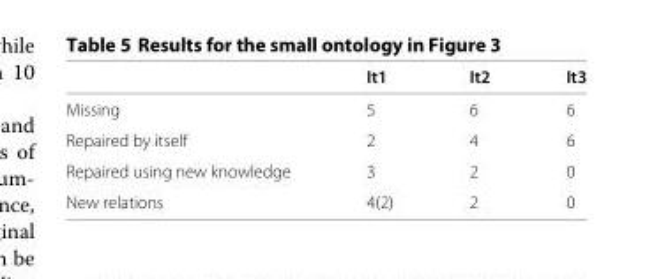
<table><thead><tr><td></td><td>It1</td><td>It2</td><td>It3</td></tr></thead><tbody><tr><td>Missing</td><td>5</td><td>6</td><td>6</td></tr><tr><td>Repaired by itself</td><td>2</td><td>4</td><td>6</td></tr><tr><td>Repaired using new knowledge</td><td>3</td><td>2</td><td>0</td></tr><tr><td>New relations</td><td>4(2)</td><td>2</td><td>0</td></tr></tbody></table>